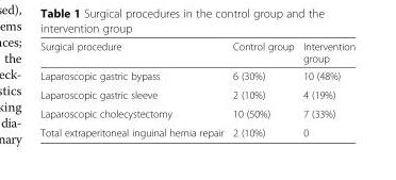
<table><thead><tr><td>Surgical procedure</td><td>Control group</td><td>Intervention group</td></tr></thead><tbody><tr><td>Laparoscopic gastric bypass</td><td>6 (30%)</td><td>10 (48%)</td></tr><tr><td>Laparoscopic gastric sleeve</td><td>2 (10%)</td><td>4 (19%)</td></tr><tr><td>Laparoscopic cholecystectomy</td><td>10 (50%)</td><td>7 (33%)</td></tr><tr><td>Total extraperitoneal inguinal hernia repair</td><td>2 (10%)</td><td>0</td></tr></tbody></table>